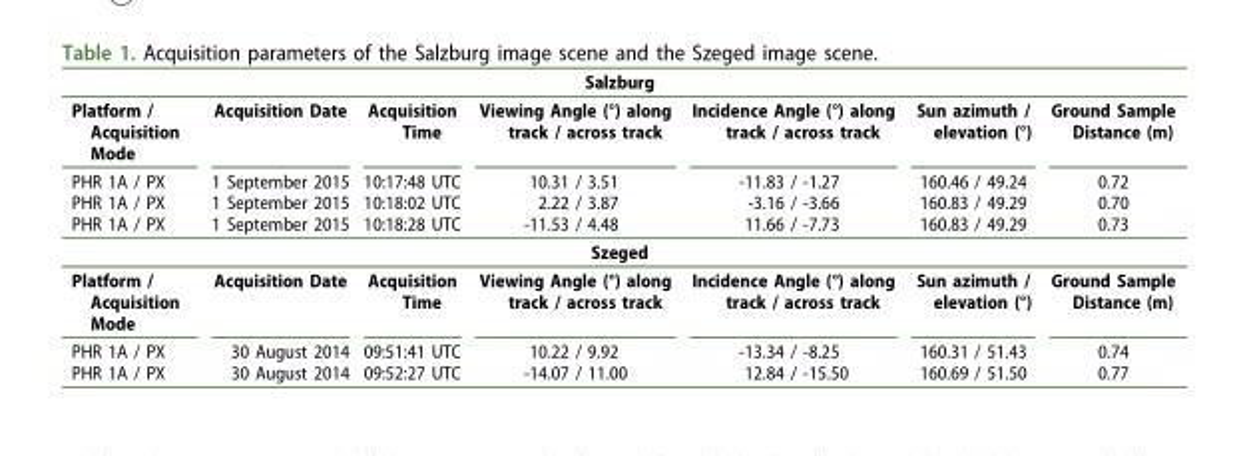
<table><tbody><tr><td colspan="7">Salzburg</td></tr><tr><td>Platform / Acquisition Mode</td><td>Acquisition Date</td><td>Acquisition Time</td><td>Viewing Angle (°) along track / across track</td><td>Incidence Angle (°) along track / across track</td><td>Sun azimuth / elevation (°)</td><td>Ground Sample Distance (m)</td></tr><tr><td>PHR 1A / PX</td><td>1 September 2015</td><td>10:17:48 UTC</td><td>10.31 / 3.51</td><td>-11.83 / -1.27</td><td>160.46 / 49.24</td><td>0.72</td></tr><tr><td>PHR 1A / PX</td><td>1 September 2015</td><td>10:18:02 UTC</td><td>2.22 / 3.87</td><td>-3.16 / -3.66</td><td>160.83 / 49.29</td><td>0.70</td></tr><tr><td>PHR 1A / PX</td><td>1 September 2015</td><td>10:18:28 UTC</td><td>-11.53 / 4.48</td><td>11.66 / -7.73</td><td>160.83 / 49.29</td><td>0.73</td></tr><tr><td colspan="7">Szeged</td></tr><tr><td>Platform / Acquisition Mode</td><td>Acquisition Date</td><td>Acquisition Time</td><td>Viewing Angle (°) along track / across track</td><td>Incidence Angle (°) along track / across track</td><td>Sun azimuth / elevation (°)</td><td>Ground Sample Distance (m)</td></tr><tr><td>PHR 1A / PX</td><td>30 August 2014</td><td>09:51:41 UTC</td><td>10.22 / 9.92</td><td>-13.34 / -8.25</td><td>160.31 / 51.43</td><td>0.74</td></tr><tr><td>PHR 1A / PX</td><td>30 August 2014</td><td>09:52:27 UTC</td><td>-14.07 / 11.00</td><td>12.84 / -15.50</td><td>160.69 / 51.50</td><td>0.77</td></tr></tbody></table>